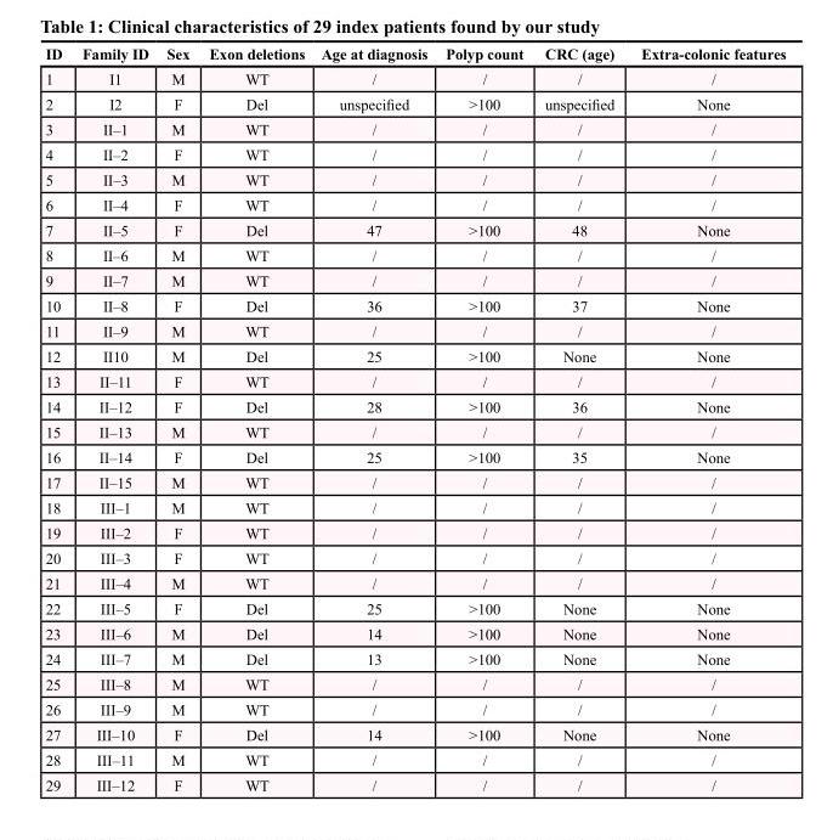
<table><thead><tr><td>ID</td><td>Family ID</td><td>Sex</td><td>Exon deletions</td><td>Age at diagnosis</td><td>Polyp count</td><td>CRC (age)</td><td>Extra-colonic features</td></tr></thead><tbody><tr><td>1</td><td>I1</td><td>M</td><td>WT</td><td>/</td><td>/</td><td>/</td><td>/</td></tr><tr><td>2</td><td>I2</td><td>F</td><td>Del</td><td>unspecified</td><td>&gt;100</td><td>unspecified</td><td>None</td></tr><tr><td>3</td><td>II–1</td><td>M</td><td>WT</td><td>/</td><td>/</td><td>/</td><td>/</td></tr><tr><td>4</td><td>II–2</td><td>F</td><td>WT</td><td>/</td><td>/</td><td>/</td><td>/</td></tr><tr><td>5</td><td>II–3</td><td>M</td><td>WT</td><td>/</td><td>/</td><td>/</td><td>/</td></tr><tr><td>6</td><td>II–4</td><td>F</td><td>WT</td><td>/</td><td>/</td><td>/</td><td>/</td></tr><tr><td>7</td><td>II–5</td><td>F</td><td>Del</td><td>47</td><td>&gt;100</td><td>48</td><td>None</td></tr><tr><td>8</td><td>II–6</td><td>M</td><td>WT</td><td>/</td><td>/</td><td>/</td><td>/</td></tr><tr><td>9</td><td>II–7</td><td>M</td><td>WT</td><td>/</td><td>/</td><td>/</td><td>/</td></tr><tr><td>10</td><td>II–8</td><td>F</td><td>Del</td><td>36</td><td>&gt;100</td><td>37</td><td>None</td></tr><tr><td>11</td><td>II–9</td><td>M</td><td>WT</td><td>/</td><td>/</td><td>/</td><td>/</td></tr><tr><td>12</td><td>II10</td><td>M</td><td>Del</td><td>25</td><td>&gt;100</td><td>None</td><td>None</td></tr><tr><td>13</td><td>II–11</td><td>F</td><td>WT</td><td>/</td><td>/</td><td>/</td><td>/</td></tr><tr><td>14</td><td>II–12</td><td>F</td><td>Del</td><td>28</td><td>&gt;100</td><td>36</td><td>None</td></tr><tr><td>15</td><td>II–13</td><td>M</td><td>WT</td><td>/</td><td>/</td><td>/</td><td>/</td></tr><tr><td>16</td><td>II–14</td><td>F</td><td>Del</td><td>25</td><td>&gt;100</td><td>35</td><td>None</td></tr><tr><td>17</td><td>II–15</td><td>M</td><td>WT</td><td>/</td><td>/</td><td>/</td><td>/</td></tr><tr><td>18</td><td>III–1</td><td>M</td><td>WT</td><td>/</td><td>/</td><td>/</td><td>/</td></tr><tr><td>19</td><td>III–2</td><td>F</td><td>WT</td><td>/</td><td>/</td><td>/</td><td>/</td></tr><tr><td>20</td><td>III–3</td><td>F</td><td>WT</td><td>/</td><td>/</td><td>/</td><td>/</td></tr><tr><td>21</td><td>III–4</td><td>M</td><td>WT</td><td>/</td><td>/</td><td>/</td><td>/</td></tr><tr><td>22</td><td>III–5</td><td>F</td><td>Del</td><td>25</td><td>&gt;100</td><td>None</td><td>None</td></tr><tr><td>23</td><td>III–6</td><td>M</td><td>Del</td><td>14</td><td>&gt;100</td><td>None</td><td>None</td></tr><tr><td>24</td><td>III–7</td><td>M</td><td>Del</td><td>13</td><td>&gt;100</td><td>None</td><td>None</td></tr><tr><td>25</td><td>III–8</td><td>M</td><td>WT</td><td>/</td><td>/</td><td>/</td><td>/</td></tr><tr><td>26</td><td>III–9</td><td>M</td><td>WT</td><td>/</td><td>/</td><td>/</td><td>/</td></tr><tr><td>27</td><td>III–10</td><td>F</td><td>Del</td><td>14</td><td>&gt;100</td><td>None</td><td>None</td></tr><tr><td>28</td><td>III–11</td><td>M</td><td>WT</td><td>/</td><td>/</td><td>/</td><td>/</td></tr><tr><td>29</td><td>III–12</td><td>F</td><td>WT</td><td>/</td><td>/</td><td>/</td><td>/</td></tr></tbody></table>